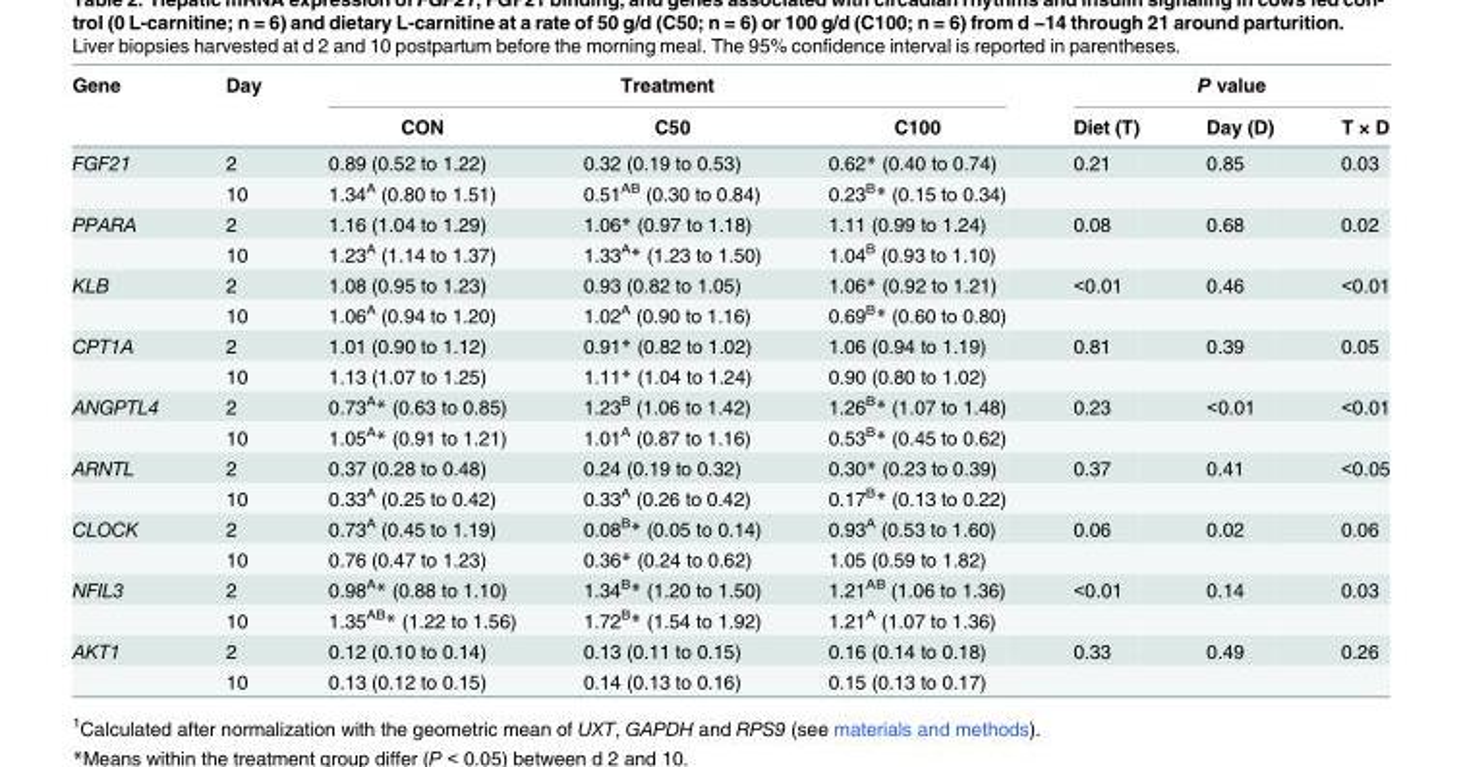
<table><thead><tr><td rowspan="2">Gene</td><td rowspan="2">Day</td><td colspan="3">Treatment</td><td colspan="3">P value</td></tr><tr><td>CON</td><td>C50</td><td>C100</td><td>Diet (T)</td><td>Day (D)</td><td>T × D</td></tr></thead><tbody><tr><td rowspan="2">FGF21</td><td>2</td><td>0.89 (0.52 to 1.22)</td><td>0.32 (0.19 to 0.53)</td><td>0.62* (0.40 to 0.74)</td><td>0.21</td><td>0.85</td><td>0.03</td></tr><tr><td>10</td><td>1.34<sup>A</sup> (0.80 to 1.51)</td><td>0.51<sup>AB</sup> (0.30 to 0.84)</td><td>0.23<sup>B</sup>* (0.15 to 0.34)</td><td></td><td></td><td></td></tr><tr><td rowspan="2">PPARA</td><td>2</td><td>1.16 (1.04 to 1.29)</td><td>1.06* (0.97 to 1.18)</td><td>1.11 (0.99 to 1.24)</td><td>0.08</td><td>0.68</td><td>0.02</td></tr><tr><td>10</td><td>1.23<sup>A</sup> (1.14 to 1.37)</td><td>1.33<sup>A</sup>* (1.23 to 1.50)</td><td>1.04<sup>B</sup> (0.93 to 1.10)</td><td></td><td></td><td></td></tr><tr><td rowspan="2">KLB</td><td>2</td><td>1.08 (0.95 to 1.23)</td><td>0.93 (0.82 to 1.05)</td><td>1.06* (0.92 to 1.21)</td><td>&lt;0.01</td><td>0.46</td><td>&lt;0.01</td></tr><tr><td>10</td><td>1.06<sup>A</sup> (0.94 to 1.20)</td><td>1.02<sup>A</sup> (0.90 to 1.16)</td><td>0.69<sup>B</sup>* (0.60 to 0.80)</td><td></td><td></td><td></td></tr><tr><td rowspan="2">CPT1A</td><td>2</td><td>1.01 (0.90 to 1.12)</td><td>0.91* (0.82 to 1.02)</td><td>1.06 (0.94 to 1.19)</td><td>0.81</td><td>0.39</td><td>0.05</td></tr><tr><td>10</td><td>1.13 (1.07 to 1.25)</td><td>1.11* (1.04 to 1.24)</td><td>0.90 (0.80 to 1.02)</td><td></td><td></td><td></td></tr><tr><td rowspan="2">ANGPTL4</td><td>2</td><td>0.73<sup>A</sup>* (0.63 to 0.85)</td><td>1.23<sup>B</sup> (1.06 to 1.42)</td><td>1.26<sup>B</sup>* (1.07 to 1.48)</td><td>0.23</td><td>&lt;0.01</td><td>&lt;0.01</td></tr><tr><td>10</td><td>1.05<sup>A</sup>* (0.91 to 1.21)</td><td>1.01<sup>A</sup> (0.87 to 1.16)</td><td>0.53<sup>B</sup>* (0.45 to 0.62)</td><td></td><td></td><td></td></tr><tr><td rowspan="2">ARNTL</td><td>2</td><td>0.37 (0.28 to 0.48)</td><td>0.24 (0.19 to 0.32)</td><td>0.30* (0.23 to 0.39)</td><td>0.37</td><td>0.41</td><td>&lt;0.05</td></tr><tr><td>10</td><td>0.33<sup>A</sup> (0.25 to 0.42)</td><td>0.33<sup>A</sup> (0.26 to 0.42)</td><td>0.17<sup>B</sup>* (0.13 to 0.22)</td><td></td><td></td><td></td></tr><tr><td rowspan="2">CLOCK</td><td>2</td><td>0.73<sup>A</sup> (0.45 to 1.19)</td><td>0.08<sup>B</sup>* (0.05 to 0.14)</td><td>0.93<sup>A</sup> (0.53 to 1.60)</td><td>0.06</td><td>0.02</td><td>0.06</td></tr><tr><td>10</td><td>0.76 (0.47 to 1.23)</td><td>0.36* (0.24 to 0.62)</td><td>1.05 (0.59 to 1.82)</td><td></td><td></td><td></td></tr><tr><td rowspan="2">NFIL3</td><td>2</td><td>0.98<sup>A</sup>* (0.88 to 1.10)</td><td>1.34<sup>B</sup>* (1.20 to 1.50)</td><td>1.21<sup>AB</sup> (1.06 to 1.36)</td><td>&lt;0.01</td><td>0.14</td><td>0.03</td></tr><tr><td>10</td><td>1.35<sup>AB</sup>* (1.22 to 1.56)</td><td>1.72<sup>B</sup>* (1.54 to 1.92)</td><td>1.21<sup>A</sup> (1.07 to 1.36)</td><td></td><td></td><td></td></tr><tr><td rowspan="2">AKT1</td><td>2</td><td>0.12 (0.10 to 0.14)</td><td>0.13 (0.11 to 0.15)</td><td>0.16 (0.14 to 0.18)</td><td>0.33</td><td>0.49</td><td>0.26</td></tr><tr><td>10</td><td>0.13 (0.12 to 0.15)</td><td>0.14 (0.13 to 0.16)</td><td>0.15 (0.13 to 0.17)</td><td></td><td></td><td></td></tr></tbody></table>